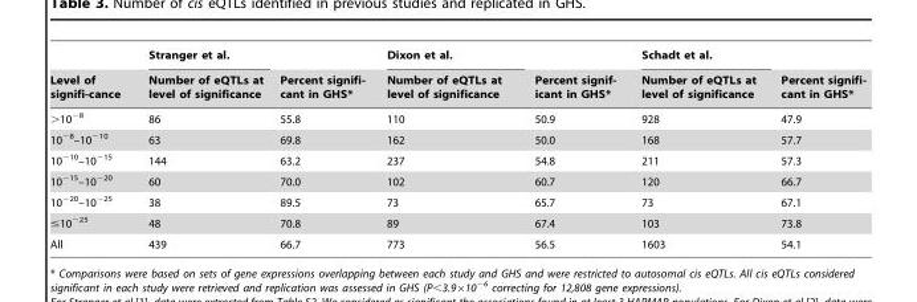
<table><thead><tr><td rowspan="2">Level of signifi-cance</td><td rowspan="2">Stranger et al. Number of eQTLs at level of significance</td><td rowspan="2">Percent signifi- cant in GHS*</td><td rowspan="2">Dixon et al. Number of eQTLs at level of significance</td><td rowspan="2">Percent signif- icant in GHS*</td><td rowspan="2">Schadt et al. Number of eQTLs at level of significance</td><td rowspan="2">Percent signifi- cant in GHS*</td></tr><tr></tr></thead><tbody><tr><td>&gt;10<sup>−8</sup></td><td>86</td><td>55.8</td><td>110</td><td>50.9</td><td>928</td><td>47.9</td></tr><tr><td>10<sup>−8</sup>–10<sup>−10</sup></td><td>63</td><td>69.8</td><td>162</td><td>50.0</td><td>168</td><td>57.7</td></tr><tr><td>10<sup>−10</sup>–10<sup>−15</sup></td><td>144</td><td>63.2</td><td>237</td><td>54.8</td><td>211</td><td>57.3</td></tr><tr><td>10<sup>−15</sup>–10<sup>−20</sup></td><td>60</td><td>70.0</td><td>102</td><td>60.7</td><td>120</td><td>66.7</td></tr><tr><td>10<sup>−20</sup>–10<sup>−25</sup></td><td>38</td><td>89.5</td><td>73</td><td>65.7</td><td>73</td><td>67.1</td></tr><tr><td>≤10<sup>−25</sup></td><td>48</td><td>70.8</td><td>89</td><td>67.4</td><td>103</td><td>73.8</td></tr><tr><td>All</td><td>439</td><td>66.7</td><td>773</td><td>56.5</td><td>1603</td><td>54.1</td></tr></tbody></table>